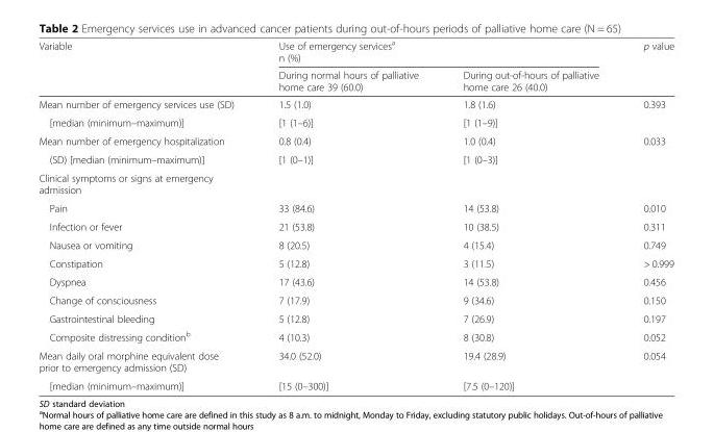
<table><thead><tr><td rowspan="2">Variable</td><td colspan="2">Use of emergency services<sup>a</sup> n (%)</td><td rowspan="2">p value</td></tr><tr><td>During normal hours of palliative home care 39 (60.0)</td><td>During out-of-hours of palliative home care 26 (40.0)</td></tr></thead><tbody><tr><td>Mean number of emergency services use (SD)</td><td>1.5 (1.0)</td><td>1.8 (1.6)</td><td>0.393</td></tr><tr><td>[median (minimum–maximum)]</td><td>[1 (1–6)]</td><td>[1 (1–9)]</td><td></td></tr><tr><td>Mean number of emergency hospitalization</td><td>0.8 (0.4)</td><td>1.0 (0.4)</td><td>0.033</td></tr><tr><td>(SD) [median (minimum–maximum)]</td><td>[1 (0–1)]</td><td>[1 (0–3)]</td><td></td></tr><tr><td colspan="4">Clinical symptoms or signs at emergency admission</td></tr><tr><td>Pain</td><td>33 (84.6)</td><td>14 (53.8)</td><td>0.010</td></tr><tr><td>Infection or fever</td><td>21 (53.8)</td><td>10 (38.5)</td><td>0.311</td></tr><tr><td>Nausea or vomiting</td><td>8 (20.5)</td><td>4 (15.4)</td><td>0.749</td></tr><tr><td>Constipation</td><td>5 (12.8)</td><td>3 (11.5)</td><td>&gt; 0.999</td></tr><tr><td>Dyspnea</td><td>17 (43.6)</td><td>14 (53.8)</td><td>0.456</td></tr><tr><td>Change of consciousness</td><td>7 (17.9)</td><td>9 (34.6)</td><td>0.150</td></tr><tr><td>Gastrointestinal bleeding</td><td>5 (12.8)</td><td>7 (26.9)</td><td>0.197</td></tr><tr><td>Composite distressing condition<sup>b</sup></td><td>4 (10.3)</td><td>8 (30.8)</td><td>0.052</td></tr><tr><td>Mean daily oral morphine equivalent dose prior to emergency admission (SD)</td><td>34.0 (52.0)</td><td>19.4 (28.9)</td><td>0.054</td></tr><tr><td>[median (minimum–maximum)]</td><td>[15 (0–300)]</td><td>[7.5 (0–120)]</td><td></td></tr></tbody></table>